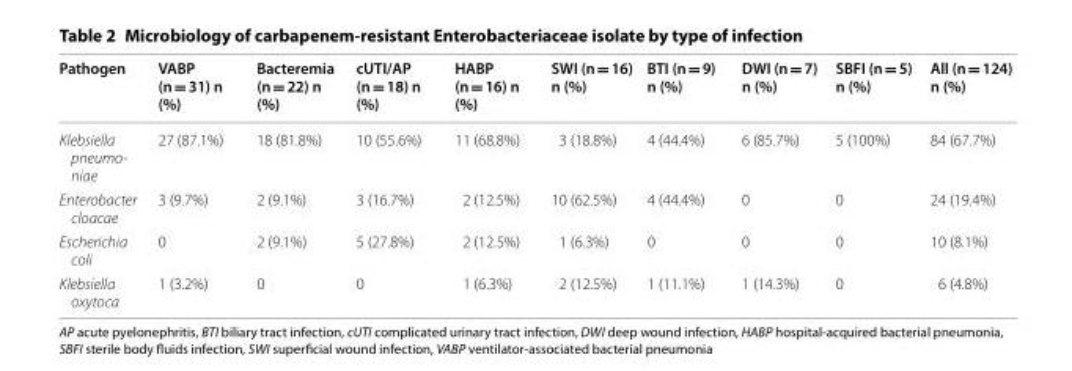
<table><thead><tr><td>Pathogen</td><td>VABP (n = 31) n (%)</td><td>Bacteremia (n = 22) n (%)</td><td>cUTI/AP (n = 18) n (%)</td><td>HABP (n = 16) n (%)</td><td>SWI (n = 16) n (%)</td><td>BTI (n = 9) n (%)</td><td>DWI (n = 7) n (%)</td><td>SBFI (n = 5) n (%)</td><td>All (n = 124) n (%)</td></tr></thead><tbody><tr><td>Klebsiella pneumo- niae</td><td>27 (87.1%)</td><td>18 (81.8%)</td><td>10 (55.6%)</td><td>11 (68.8%)</td><td>3 (18.8%)</td><td>4 (44.4%)</td><td>6 (85.7%)</td><td>5 (100%)</td><td>84 (67.7%)</td></tr><tr><td>Enterobacter cloacae</td><td>3 (9.7%)</td><td>2 (9.1%)</td><td>3 (16.7%)</td><td>2 (12.5%)</td><td>10 (62.5%)</td><td>4 (44.4%)</td><td>0</td><td>0</td><td>24 (19.4%)</td></tr><tr><td>Escherichia coli</td><td>0</td><td>2 (9.1%)</td><td>5 (27.8%)</td><td>2 (12.5%)</td><td>1 (6.3%)</td><td>0</td><td>0</td><td>0</td><td>10 (8.1%)</td></tr><tr><td>Klebsiella oxytoca</td><td>1 (3.2%)</td><td>0</td><td>0</td><td>1 (6.3%)</td><td>2 (12.5%)</td><td>1 (11.1%)</td><td>1 (14.3%)</td><td>0</td><td>6 (4.8%)</td></tr></tbody></table>